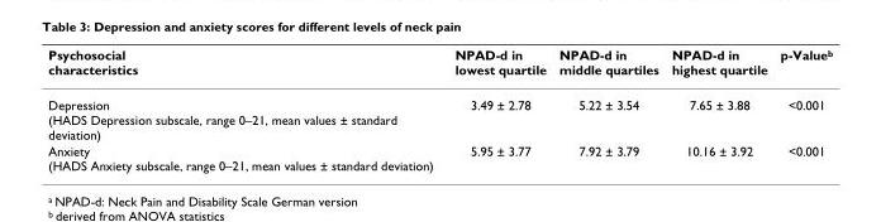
<table><thead><tr><td>Psychosocial characteristics</td><td>NPAD-d in lowest quartile</td><td>NPAD-d in middle quartiles</td><td>NPAD-d in highest quartile</td><td>p-Value<sup>b</sup></td></tr></thead><tbody><tr><td>Depression (HADS Depression subscale, range 0–21, mean values ± standard deviation)</td><td>3.49 ± 2.78</td><td>5.22 ± 3.54</td><td>7.65 ± 3.88</td><td>&lt;0.001</td></tr><tr><td>Anxiety (HADS Anxiety subscale, range 0–21, mean values ± standard deviation)</td><td>5.95 ± 3.77</td><td>7.92 ± 3.79</td><td>10.16 ± 3.92</td><td>&lt;0.001</td></tr></tbody></table>